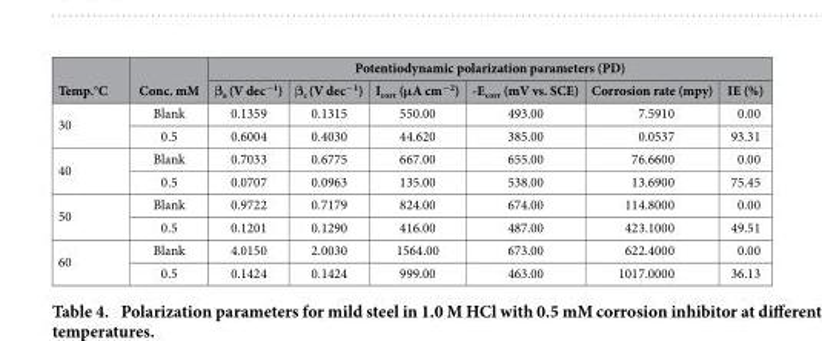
<table><thead><tr><td rowspan="2">Temp.°C</td><td rowspan="2">Conc. mM</td><td colspan="6">Potentiodynamic polarization parameters (PD)</td></tr><tr><td>β<sub>a</sub> (V dec<sup>−1</sup>)</td><td>β<sub>c</sub> (V dec<sup>−1</sup>)</td><td>I<sub>corr</sub> (μA cm<sup>−2</sup>)</td><td>-E<sub>corr</sub> (mV vs. SCE)</td><td>Corrosion rate (mpy)</td><td>IE (%)</td></tr></thead><tbody><tr><td rowspan="2">30</td><td>Blank</td><td>0.1359</td><td>0.1315</td><td>550.00</td><td>493.00</td><td>7.5910</td><td>0.00</td></tr><tr><td>0.5</td><td>0.6004</td><td>0.4030</td><td>44.620</td><td>385.00</td><td>0.0537</td><td>93.31</td></tr><tr><td rowspan="2">40</td><td>Blank</td><td>0.7033</td><td>0.6775</td><td>667.00</td><td>655.00</td><td>76.6600</td><td>0.00</td></tr><tr><td>0.5</td><td>0.0707</td><td>0.0963</td><td>135.00</td><td>538.00</td><td>13.6900</td><td>75.45</td></tr><tr><td rowspan="2">50</td><td>Blank</td><td>0.9722</td><td>0.7179</td><td>824.00</td><td>674.00</td><td>114.8000</td><td>0.00</td></tr><tr><td>0.5</td><td>0.1201</td><td>0.1290</td><td>416.00</td><td>487.00</td><td>423.1000</td><td>49.51</td></tr><tr><td rowspan="2">60</td><td>Blank</td><td>4.0150</td><td>2.0030</td><td>1564.00</td><td>673.00</td><td>622.4000</td><td>0.00</td></tr><tr><td>0.5</td><td>0.1424</td><td>0.1424</td><td>999.00</td><td>463.00</td><td>1017.0000</td><td>36.13</td></tr></tbody></table>